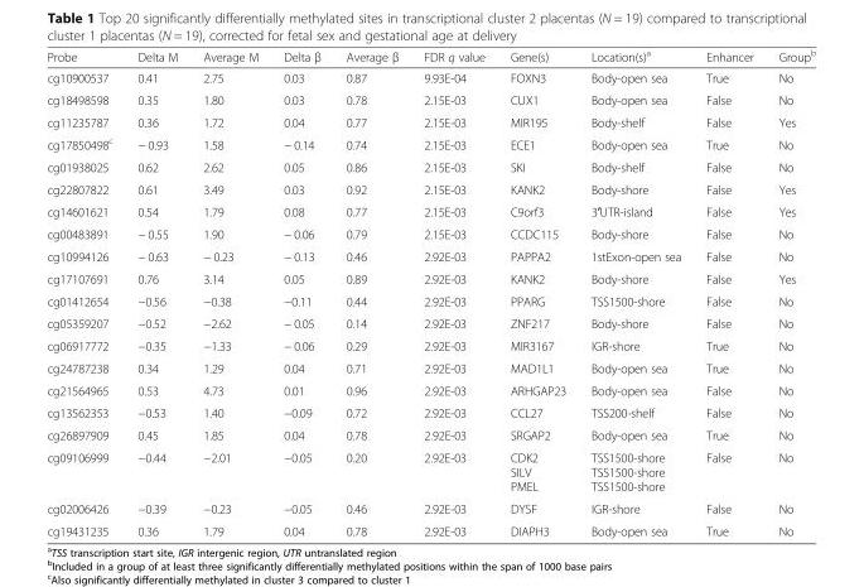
<table><thead><tr><td>Probe</td><td>Delta M</td><td>Average M</td><td>Delta β</td><td>Average β</td><td>FDR q value</td><td>Gene(s)</td><td>Location(s)<sup>a</sup></td><td>Enhancer</td><td>Group<sup>b</sup></td></tr></thead><tbody><tr><td>cg10900537</td><td>0.41</td><td>2.75</td><td>0.03</td><td>0.87</td><td>9.93E-04</td><td>FOXN3</td><td>Body-open sea</td><td>True</td><td>No</td></tr><tr><td>cg18498598</td><td>0.35</td><td>1.80</td><td>0.03</td><td>0.78</td><td>2.15E-03</td><td>CUX1</td><td>Body-open sea</td><td>False</td><td>No</td></tr><tr><td>cg11235787</td><td>0.36</td><td>1.72</td><td>0.04</td><td>0.77</td><td>2.15E-03</td><td>MIR195</td><td>Body-shelf</td><td>False</td><td>Yes</td></tr><tr><td>cg17850498<sup>c</sup></td><td>− 0.93</td><td>1.58</td><td>− 0.14</td><td>0.74</td><td>2.15E-03</td><td>ECE1</td><td>Body-open sea</td><td>True</td><td>No</td></tr><tr><td>cg01938025</td><td>0.62</td><td>2.62</td><td>0.05</td><td>0.86</td><td>2.15E-03</td><td>SKI</td><td>Body-shelf</td><td>False</td><td>No</td></tr><tr><td>cg22807822</td><td>0.61</td><td>3.49</td><td>0.03</td><td>0.92</td><td>2.15E-03</td><td>KANK2</td><td>Body-shore</td><td>False</td><td>Yes</td></tr><tr><td>cg14601621</td><td>0.54</td><td>1.79</td><td>0.08</td><td>0.77</td><td>2.15E-03</td><td>C9orf3</td><td>3′UTR-island</td><td>False</td><td>Yes</td></tr><tr><td>cg00483891</td><td>− 0.55</td><td>1.90</td><td>− 0.06</td><td>0.79</td><td>2.15E-03</td><td>CCDC115</td><td>Body-shore</td><td>False</td><td>No</td></tr><tr><td>cg10994126</td><td>− 0.63</td><td>− 0.23</td><td>− 0.13</td><td>0.46</td><td>2.92E-03</td><td>PAPPA2</td><td>1stExon-open sea</td><td>False</td><td>No</td></tr><tr><td>cg17107691</td><td>0.76</td><td>3.14</td><td>0.05</td><td>0.89</td><td>2.92E-03</td><td>KANK2</td><td>Body-shore</td><td>False</td><td>Yes</td></tr><tr><td>cg01412654</td><td>−0.56</td><td>−0.38</td><td>−0.11</td><td>0.44</td><td>2.92E-03</td><td>PPARG</td><td>TSS1500-shore</td><td>False</td><td>No</td></tr><tr><td>cg05359207</td><td>−0.52</td><td>−2.62</td><td>− 0.05</td><td>0.14</td><td>2.92E-03</td><td>ZNF217</td><td>Body-shore</td><td>False</td><td>No</td></tr><tr><td>cg06917772</td><td>−0.35</td><td>−1.33</td><td>− 0.06</td><td>0.29</td><td>2.92E-03</td><td>MIR3167</td><td>IGR-shore</td><td>True</td><td>No</td></tr><tr><td>cg24787238</td><td>0.34</td><td>1.29</td><td>0.04</td><td>0.71</td><td>2.92E-03</td><td>MAD1L1</td><td>Body-open sea</td><td>True</td><td>No</td></tr><tr><td>cg21564965</td><td>0.53</td><td>4.73</td><td>0.01</td><td>0.96</td><td>2.92E-03</td><td>ARHGAP23</td><td>Body-open sea</td><td>False</td><td>No</td></tr><tr><td>cg13562353</td><td>−0.53</td><td>1.40</td><td>−0.09</td><td>0.72</td><td>2.92E-03</td><td>CCL27</td><td>TSS200-shelf</td><td>False</td><td>No</td></tr><tr><td>cg26897909</td><td>0.45</td><td>1.85</td><td>0.04</td><td>0.78</td><td>2.92E-03</td><td>SRGAP2</td><td>Body-open sea</td><td>True</td><td>No</td></tr><tr><td>cg09106999</td><td>−0.44</td><td>−2.01</td><td>−0.05</td><td>0.20</td><td>2.92E-03</td><td>CDK2 SILV PMEL</td><td>TSS1500-shore TSS1500-shore TSS1500-shore</td><td>False</td><td>No</td></tr><tr><td>cg02006426</td><td>−0.39</td><td>−0.23</td><td>−0.05</td><td>0.46</td><td>2.92E-03</td><td>DYSF</td><td>IGR-shore</td><td>False</td><td>No</td></tr><tr><td>cg19431235</td><td>0.36</td><td>1.79</td><td>0.04</td><td>0.78</td><td>2.92E-03</td><td>DIAPH3</td><td>Body-open sea</td><td>True</td><td>No</td></tr></tbody></table>